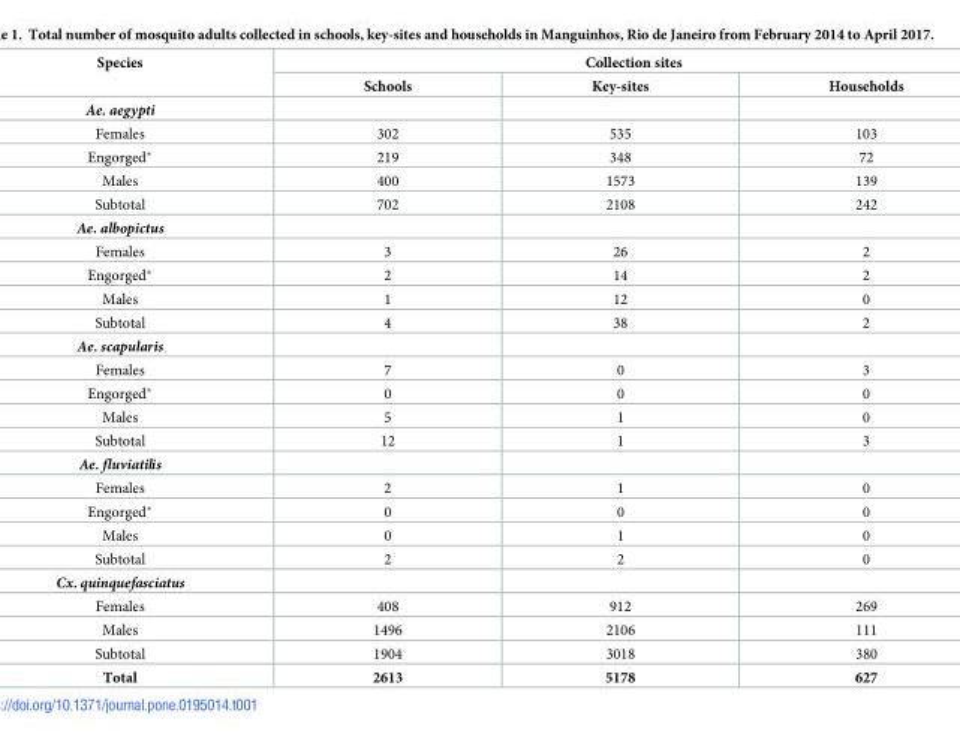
<table><thead><tr><td rowspan="2">Species</td><td colspan="3">Collection sites</td></tr><tr><td>Schools</td><td>Key-sites</td><td>Households</td></tr></thead><tbody><tr><td colspan="4">Ae. aegypti</td></tr><tr><td>Females</td><td>302</td><td>535</td><td>103</td></tr><tr><td>Engorged*</td><td>219</td><td>348</td><td>72</td></tr><tr><td>Males</td><td>400</td><td>1573</td><td>139</td></tr><tr><td>Subtotal</td><td>702</td><td>2108</td><td>242</td></tr><tr><td colspan="4">Ae. albopictus</td></tr><tr><td>Females</td><td>3</td><td>26</td><td>2</td></tr><tr><td>Engorged*</td><td>2</td><td>14</td><td>2</td></tr><tr><td>Males</td><td>1</td><td>12</td><td>0</td></tr><tr><td>Subtotal</td><td>4</td><td>38</td><td>2</td></tr><tr><td colspan="4">Ae. scapularis</td></tr><tr><td>Females</td><td>7</td><td>0</td><td>3</td></tr><tr><td>Engorged*</td><td>0</td><td>0</td><td>0</td></tr><tr><td>Males</td><td>5</td><td>1</td><td>0</td></tr><tr><td>Subtotal</td><td>12</td><td>1</td><td>3</td></tr><tr><td colspan="4">Ae. fluviatilis</td></tr><tr><td>Females</td><td>2</td><td>1</td><td>0</td></tr><tr><td>Engorged*</td><td>0</td><td>0</td><td>0</td></tr><tr><td>Males</td><td>0</td><td>1</td><td>0</td></tr><tr><td>Subtotal</td><td>2</td><td>2</td><td>0</td></tr><tr><td colspan="4">Cx. quinquefasciatus</td></tr><tr><td>Females</td><td>408</td><td>912</td><td>269</td></tr><tr><td>Males</td><td>1496</td><td>2106</td><td>111</td></tr><tr><td>Subtotal</td><td>1904</td><td>3018</td><td>380</td></tr><tr><td>Total</td><td>2613</td><td>5178</td><td>627</td></tr></tbody></table>